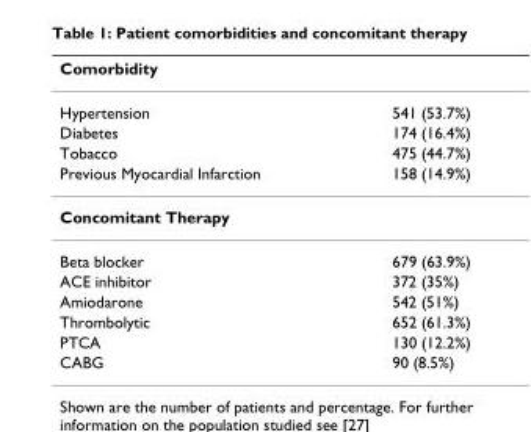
<table><thead><tr><td colspan="2">Comorbidity</td></tr><tr><td>Hypertension</td><td>541 (53.7%)</td></tr></thead><tbody><tr><td>Diabetes</td><td>174 (16.4%)</td></tr><tr><td>Tobacco</td><td>475 (44.7%)</td></tr><tr><td>Previous Myocardial Infarction</td><td>158 (14.9%)</td></tr><tr><td colspan="2">Concomitant Therapy</td></tr><tr><td>Beta blocker</td><td>679 (63.9%)</td></tr><tr><td>ACE inhibitor</td><td>372 (35%)</td></tr><tr><td>Amiodarone</td><td>542 (51%)</td></tr><tr><td>Thrombolytic</td><td>652 (61.3%)</td></tr><tr><td>PTCA</td><td>130 (12.2%)</td></tr><tr><td>CABG</td><td>90 (8.5%)</td></tr></tbody></table>